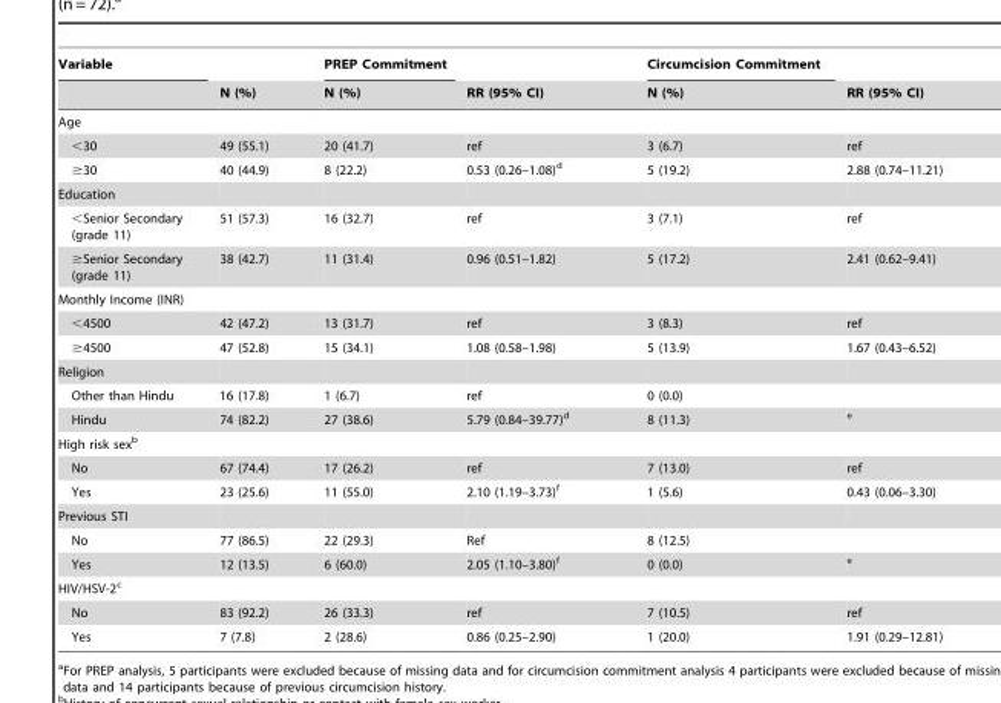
<table><thead><tr><td rowspan="2">Variable</td><td rowspan="2">N (%)</td><td rowspan="2">PREP Commitment N (%)</td><td rowspan="2">RR (95% CI)</td><td rowspan="2">Circumcision Commitment N (%)</td><td rowspan="2">RR (95% CI)</td></tr><tr></tr></thead><tbody><tr><td colspan="6">Age</td></tr><tr><td>&lt;30</td><td>49 (55.1)</td><td>20 (41.7)</td><td>ref</td><td>3 (6.7)</td><td>ref</td></tr><tr><td>≥30</td><td>40 (44.9)</td><td>8 (22.2)</td><td>0.53 (0.26–1.08)<sup>d</sup></td><td>5 (19.2)</td><td>2.88 (0.74–11.21)</td></tr><tr><td colspan="6">Education</td></tr><tr><td>&lt;Senior Secondary (grade 11)</td><td>51 (57.3)</td><td>16 (32.7)</td><td>ref</td><td>3 (7.1)</td><td>ref</td></tr><tr><td>≥Senior Secondary (grade 11)</td><td>38 (42.7)</td><td>11 (31.4)</td><td>0.96 (0.51–1.82)</td><td>5 (17.2)</td><td>2.41 (0.62–9.41)</td></tr><tr><td colspan="6">Monthly Income (INR)</td></tr><tr><td>&lt;4500</td><td>42 (47.2)</td><td>13 (31.7)</td><td>ref</td><td>3 (8.3)</td><td>ref</td></tr><tr><td>≥4500</td><td>47 (52.8)</td><td>15 (34.1)</td><td>1.08 (0.58–1.98)</td><td>5 (13.9)</td><td>1.67 (0.43–6.52)</td></tr><tr><td colspan="6">Religion</td></tr><tr><td>Other than Hindu</td><td>16 (17.8)</td><td>1 (6.7)</td><td>ref</td><td>0 (0.0)</td><td></td></tr><tr><td>Hindu</td><td>74 (82.2)</td><td>27 (38.6)</td><td>5.79 (0.84–39.77)<sup>d</sup></td><td>8 (11.3)</td><td>e</td></tr><tr><td colspan="6">High risk sex<sup>b</sup></td></tr><tr><td>No</td><td>67 (74.4)</td><td>17 (26.2)</td><td>ref</td><td>7 (13.0)</td><td>ref</td></tr><tr><td>Yes</td><td>23 (25.6)</td><td>11 (55.0)</td><td>2.10 (1.19–3.73)<sup>f</sup></td><td>1 (5.6)</td><td>0.43 (0.06–3.30)</td></tr><tr><td colspan="6">Previous STI</td></tr><tr><td>No</td><td>77 (86.5)</td><td>22 (29.3)</td><td>Ref</td><td>8 (12.5)</td><td></td></tr><tr><td>Yes</td><td>12 (13.5)</td><td>6 (60.0)</td><td>2.05 (1.10–3.80)<sup>f</sup></td><td>0 (0.0)</td><td>e</td></tr><tr><td colspan="6">HIV/HSV-2<sup>c</sup></td></tr><tr><td>No</td><td>83 (92.2)</td><td>26 (33.3)</td><td>ref</td><td>7 (10.5)</td><td>ref</td></tr><tr><td>Yes</td><td>7 (7.8)</td><td>2 (28.6)</td><td>0.86 (0.25–2.90)</td><td>1 (20.0)</td><td>1.91 (0.29–12.81)</td></tr></tbody></table>